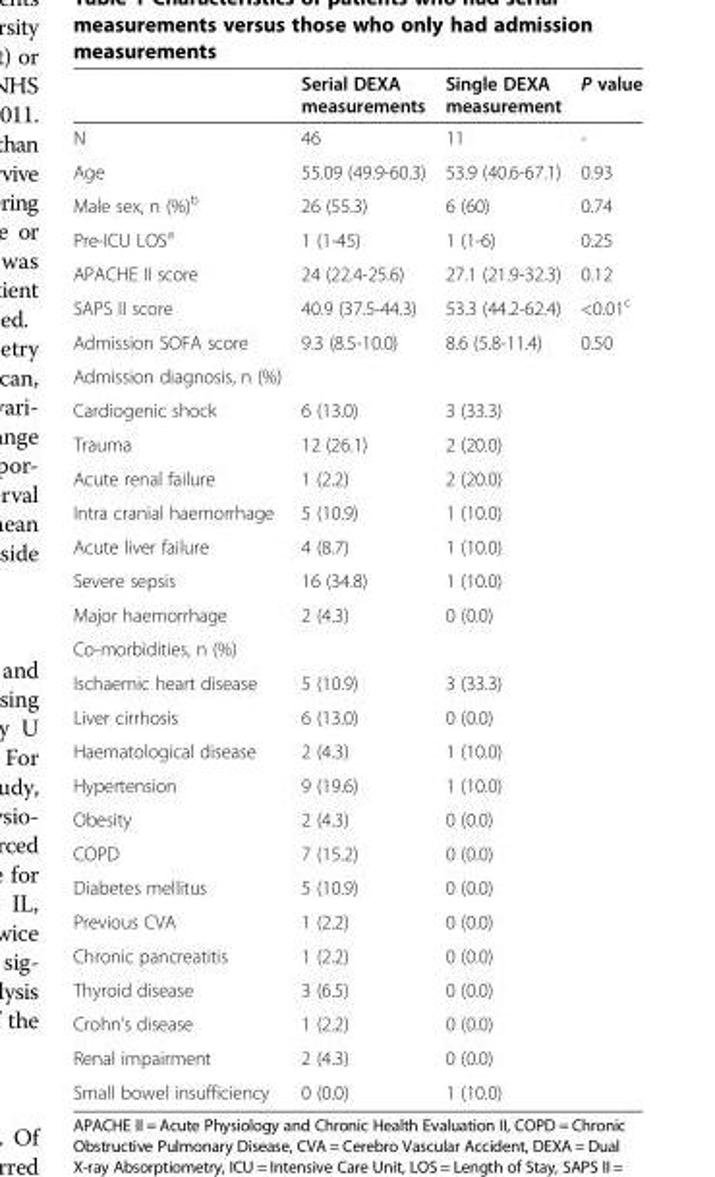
<table><thead><tr><td></td><td>Serial DEXA measurements</td><td>Single DEXA measurement</td><td>P value</td></tr></thead><tbody><tr><td>N</td><td>46</td><td>11</td><td>-</td></tr><tr><td>Age</td><td>55.09 (49.9-60.3)</td><td>53.9 (40.6-67.1)</td><td>0.93</td></tr><tr><td>Male sex, n (%)<sup>b</sup></td><td>26 (55.3)</td><td>6 (60)</td><td>0.74</td></tr><tr><td>Pre-ICU LOS<sup>a</sup></td><td>1 (1-45)</td><td>1 (1-6)</td><td>0.25</td></tr><tr><td>APACHE II score</td><td>24 (22.4-25.6)</td><td>27.1 (21.9-32.3)</td><td>0.12</td></tr><tr><td>SAPS II score</td><td>40.9 (37.5-44.3)</td><td>53.3 (44.2-62.4)</td><td>&lt;0.01<sup>c</sup></td></tr><tr><td>Admission SOFA score</td><td>9.3 (8.5-10.0)</td><td>8.6 (5.8-11.4)</td><td>0.50</td></tr><tr><td colspan="4">Admission diagnosis, n (%)</td></tr><tr><td>Cardiogenic shock</td><td>6 (13.0)</td><td>3 (33.3)</td><td></td></tr><tr><td>Trauma</td><td>12 (26.1)</td><td>2 (20.0)</td><td></td></tr><tr><td>Acute renal failure</td><td>1 (2.2)</td><td>2 (20.0)</td><td></td></tr><tr><td>Intra cranial haemorrhage</td><td>5 (10.9)</td><td>1 (10.0)</td><td></td></tr><tr><td>Acute liver failure</td><td>4 (8.7)</td><td>1 (10.0)</td><td></td></tr><tr><td>Severe sepsis</td><td>16 (34.8)</td><td>1 (10.0)</td><td></td></tr><tr><td>Major haemorrhage</td><td>2 (4.3)</td><td>0 (0.0)</td><td></td></tr><tr><td colspan="4">Co-morbidities, n (%)</td></tr><tr><td>Ischaemic heart disease</td><td>5 (10.9)</td><td>3 (33.3)</td><td></td></tr><tr><td>Liver cirrhosis</td><td>6 (13.0)</td><td>0 (0.0)</td><td></td></tr><tr><td>Haematological disease</td><td>2 (4.3)</td><td>1 (10.0)</td><td></td></tr><tr><td>Hypertension</td><td>9 (19.6)</td><td>1 (10.0)</td><td></td></tr><tr><td>Obesity</td><td>2 (4.3)</td><td>0 (0.0)</td><td></td></tr><tr><td>COPD</td><td>7 (15.2)</td><td>0 (0.0)</td><td></td></tr><tr><td>Diabetes mellitus</td><td>5 (10.9)</td><td>0 (0.0)</td><td></td></tr><tr><td>Previous CVA</td><td>1 (2.2)</td><td>0 (0.0)</td><td></td></tr><tr><td>Chronic pancreatitis</td><td>1 (2.2)</td><td>0 (0.0)</td><td></td></tr><tr><td>Thyroid disease</td><td>3 (6.5)</td><td>0 (0.0)</td><td></td></tr><tr><td>Crohn’s disease</td><td>1 (2.2)</td><td>0 (0.0)</td><td></td></tr><tr><td>Renal impairment</td><td>2 (4.3)</td><td>0 (0.0)</td><td></td></tr><tr><td>Small bowel insufficiency</td><td>0 (0.0)</td><td>1 (10.0)</td><td></td></tr></tbody></table>